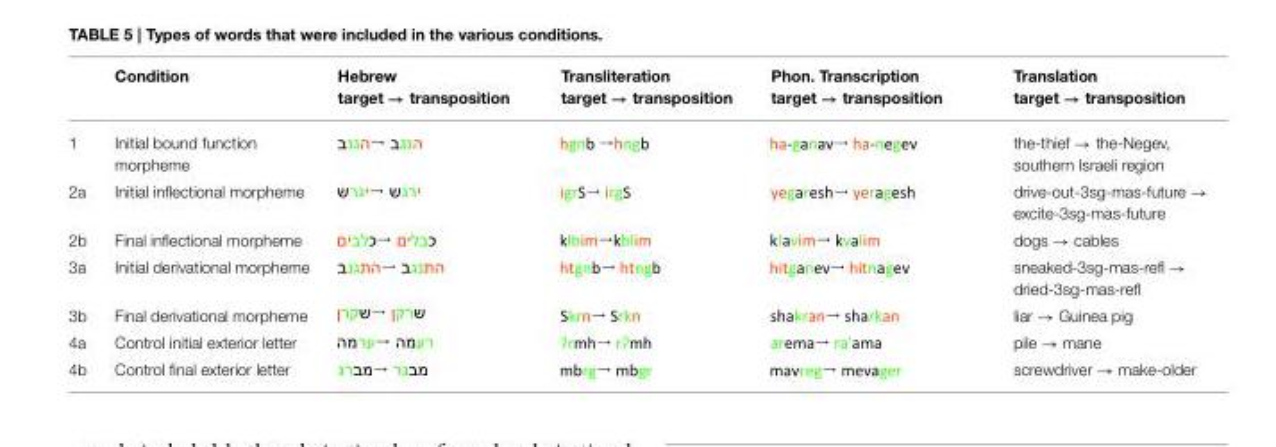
<table><thead><tr><td></td><td>Condition</td><td>Hebrew target → transposition</td><td>Transliteration target → transposition</td><td>Phon. Transcription target → transposition</td><td>Translation target → transposition</td></tr></thead><tbody><tr><td>1</td><td>Initial bound function morpheme</td><td rowspan="7"></td><td rowspan="7"></td><td rowspan="7"></td><td>the-thief → the-Negev, southern Israeli region</td></tr><tr><td>2a</td><td>Initial inflectional morpheme</td><td>drive-out-3sg-mas-future → excite-3sg-mas-future</td></tr><tr><td>2b</td><td>Final inflectional morpheme</td><td>dogs → cables</td></tr><tr><td>3a</td><td>Initial derivational morpheme</td><td>sneaked-3sg-mas-refl → dried-3sg-mas-refl</td></tr><tr><td>3b</td><td>Final derivational morpheme</td><td>liar → Guinea pig</td></tr><tr><td>4a</td><td>Control initial exterior letter</td><td>pile → mane</td></tr><tr><td>4b</td><td>Control final exterior letter</td><td>screwdriver → make-older</td></tr></tbody></table>